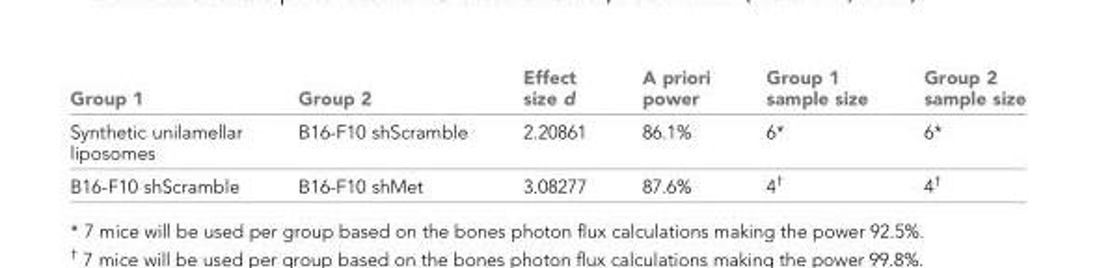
<table><thead><tr><td>Group 1</td><td>Group 2</td><td>Effect size d</td><td>A priori power</td><td>Group 1 sample size</td><td>Group 2 sample size</td></tr></thead><tbody><tr><td>Synthetic unilamellar liposomes</td><td>B16-F10 shScramble</td><td>2.20861</td><td>86.1%</td><td>6*</td><td>6*</td></tr><tr><td>B16-F10 shScramble</td><td>B16-F10 shMet</td><td>3.08277</td><td>87.6%</td><td>4<sup>†</sup></td><td>4<sup>†</sup></td></tr></tbody></table>